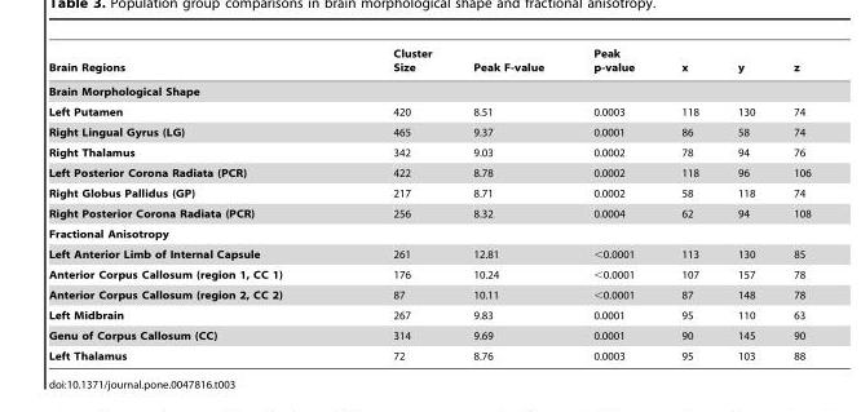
<table><thead><tr><td>Brain Regions</td><td>Cluster Size</td><td>Peak F-value</td><td>Peak p-value</td><td>x</td><td>y</td><td>z</td></tr></thead><tbody><tr><td colspan="7">Brain Morphological Shape</td></tr><tr><td>Left Putamen</td><td>420</td><td>8.51</td><td>0.0003</td><td>118</td><td>130</td><td>74</td></tr><tr><td>Right Lingual Gyrus (LG)</td><td>465</td><td>9.37</td><td>0.0001</td><td>86</td><td>58</td><td>74</td></tr><tr><td>Right Thalamus</td><td>342</td><td>9.03</td><td>0.0002</td><td>78</td><td>94</td><td>76</td></tr><tr><td>Left Posterior Corona Radiata (PCR)</td><td>422</td><td>8.78</td><td>0.0002</td><td>118</td><td>96</td><td>106</td></tr><tr><td>Right Globus Pallidus (GP)</td><td>217</td><td>8.71</td><td>0.0002</td><td>58</td><td>118</td><td>74</td></tr><tr><td>Right Posterior Corona Radiata (PCR)</td><td>256</td><td>8.32</td><td>0.0004</td><td>62</td><td>94</td><td>108</td></tr><tr><td colspan="7">Fractional Anisotropy</td></tr><tr><td>Left Anterior Limb of Internal Capsule</td><td>261</td><td>12.81</td><td>&lt;0.0001</td><td>113</td><td>130</td><td>85</td></tr><tr><td>Anterior Corpus Callosum (region 1, CC 1)</td><td>176</td><td>10.24</td><td>&lt;0.0001</td><td>107</td><td>157</td><td>78</td></tr><tr><td>Anterior Corpus Callosum (region 2, CC 2)</td><td>87</td><td>10.11</td><td>&lt;0.0001</td><td>87</td><td>148</td><td>78</td></tr><tr><td>Left Midbrain</td><td>267</td><td>9.83</td><td>0.0001</td><td>95</td><td>110</td><td>63</td></tr><tr><td>Genu of Corpus Callosum (CC)</td><td>314</td><td>9.69</td><td>0.0001</td><td>90</td><td>145</td><td>90</td></tr><tr><td>Left Thalamus</td><td>72</td><td>8.76</td><td>0.0003</td><td>95</td><td>103</td><td>88</td></tr></tbody></table>